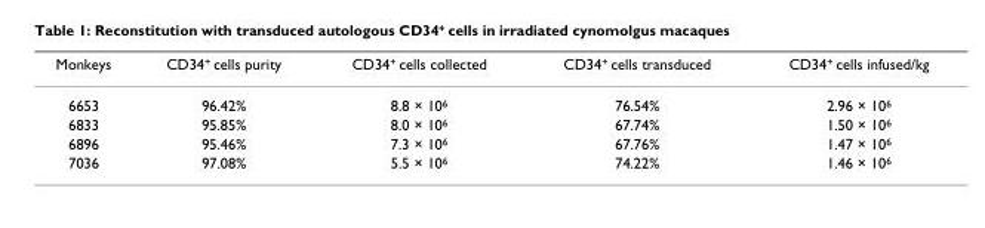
<table><thead><tr><td>Monkeys</td><td>CD34<sup>+</sup> cells purity</td><td>CD34<sup>+</sup> cells collected</td><td>CD34<sup>+</sup> cells transduced</td><td>CD34<sup>+</sup> cells infused/kg</td></tr></thead><tbody><tr><td>6653</td><td>96.42%</td><td>8.8 × 10<sup>6</sup></td><td>76.54%</td><td>2.96 × 10<sup>6</sup></td></tr><tr><td>6833</td><td>95.85%</td><td>8.0 × 10<sup>6</sup></td><td>67.74%</td><td>1.50 × 10<sup>6</sup></td></tr><tr><td>6896</td><td>95.46%</td><td>7.3 × 10<sup>6</sup></td><td>67.76%</td><td>1.47 × 10<sup>6</sup></td></tr><tr><td>7036</td><td>97.08%</td><td>5.5 × 10<sup>6</sup></td><td>74.22%</td><td>1.46 × 10<sup>6</sup></td></tr></tbody></table>